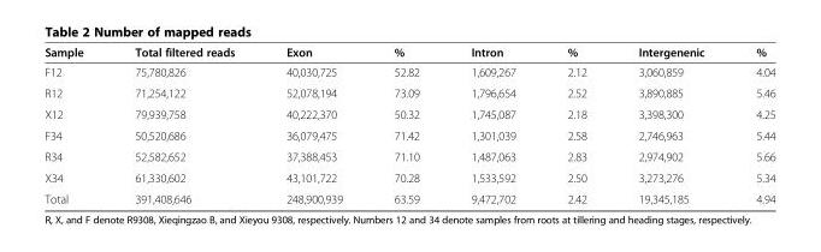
<table><thead><tr><td>Sample</td><td>Total filtered reads</td><td>Exon</td><td>%</td><td>Intron</td><td>%</td><td>Intergenenic</td><td>%</td></tr></thead><tbody><tr><td>F12</td><td>75,780,826</td><td>40,030,725</td><td>52.82</td><td>1,609,267</td><td>2.12</td><td>3,060,859</td><td>4.04</td></tr><tr><td>R12</td><td>71,254,122</td><td>52,078,194</td><td>73.09</td><td>1,796,654</td><td>2.52</td><td>3,890,885</td><td>5.46</td></tr><tr><td>X12</td><td>79,939,758</td><td>40,222,370</td><td>50.32</td><td>1,745,087</td><td>2.18</td><td>3,398,300</td><td>4.25</td></tr><tr><td>F34</td><td>50,520,686</td><td>36,079,475</td><td>71.42</td><td>1,301,039</td><td>2.58</td><td>2,746,963</td><td>5.44</td></tr><tr><td>R34</td><td>52,582,652</td><td>37,388,453</td><td>71.10</td><td>1,487,063</td><td>2.83</td><td>2,974,902</td><td>5.66</td></tr><tr><td>X34</td><td>61,330,602</td><td>43,101,722</td><td>70.28</td><td>1,533,592</td><td>2.50</td><td>3,273,276</td><td>5.34</td></tr><tr><td>Total</td><td>391,408,646</td><td>248,900,939</td><td>63.59</td><td>9,472,702</td><td>2.42</td><td>19,345,185</td><td>4.94</td></tr></tbody></table>